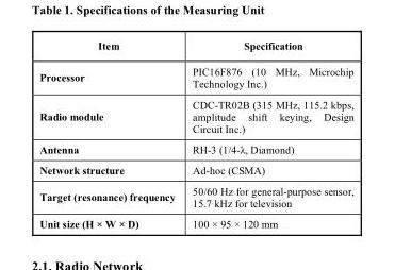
<table><thead><tr><td>Item</td><td>Specification</td></tr></thead><tbody><tr><td>Processor</td><td>PIC16F876 (10 MHz, Microchip Technology Inc.)</td></tr><tr><td>Radio module</td><td>CDC-TR02B (315 MHz, 115.2 kbps, amplitude shift keying, Design Circuit Inc.)</td></tr><tr><td>Antenna</td><td>RH-3 (1/4-λ, Diamond)</td></tr><tr><td>Network structure</td><td>Ad-hoc (CSMA)</td></tr><tr><td>Target (resonance) frequency</td><td>50/60 Hz for general-purpose sensor, 15.7 kHz for television</td></tr><tr><td>Unit size (H × W × D)</td><td>100 × 95 × 120 mm</td></tr></tbody></table>